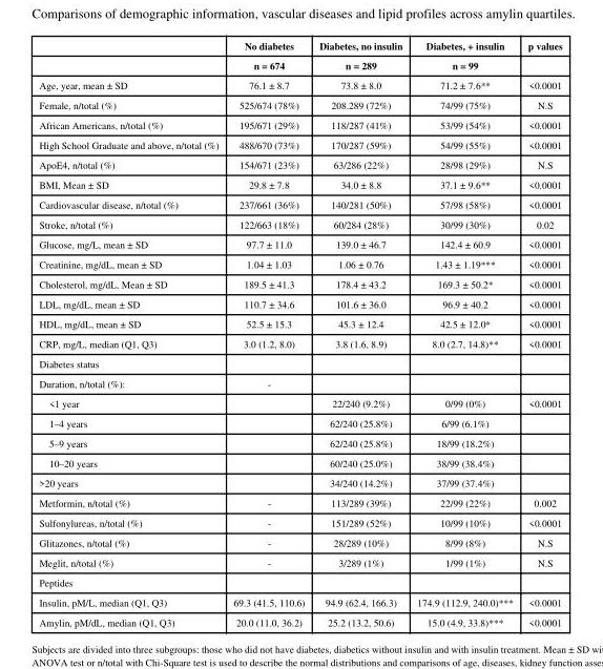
<table><thead><tr><td rowspan="2"></td><td rowspan="2">No diabetes n = 674</td><td rowspan="2">Diabetes, no insulin n = 289</td><td rowspan="2">Diabetes, + insulin n = 99</td><td rowspan="2">p values</td></tr><tr></tr></thead><tbody><tr><td>Age, year, mean ± SD</td><td>76.1 ± 8.7</td><td>73.8 ± 8.0</td><td>71.2 ± 7.6**</td><td>&lt;0.0001</td></tr><tr><td>Female, n/total (%)</td><td>525/674 (78%)</td><td>208.289 (72%)</td><td>74/99 (75%)</td><td>N.S</td></tr><tr><td>African Americans, n/total (%)</td><td>195/671 (29%)</td><td>118/287 (41%)</td><td>53/99 (54%)</td><td>&lt;0.0001</td></tr><tr><td>High School Graduate and above, n/total (%)</td><td>488/670 (73%)</td><td>170/287 (59%)</td><td>54/99 (55%)</td><td>&lt;0.0001</td></tr><tr><td>ApoE4, n/total (%)</td><td>154/671 (23%)</td><td>63/286 (22%)</td><td>28/98 (29%)</td><td>N.S</td></tr><tr><td>BMI, Mean ± SD</td><td>29.8 ± 7.8</td><td>34.0 ± 8.8</td><td>37.1 ± 9.6**</td><td>&lt;0.0001</td></tr><tr><td>Cardiovascular disease, n/total (%)</td><td>237/661 (36%)</td><td>140/281 (50%)</td><td>57/98 (58%)</td><td>&lt;0.0001</td></tr><tr><td>Stroke, n/total (%)</td><td>122/663 (18%)</td><td>60/284 (28%)</td><td>30/99 (30%)</td><td>0.02</td></tr><tr><td>Glucose, mg/L, mean ± SD</td><td>97.7 ± 11.0</td><td>139.0 ± 46.7</td><td>142.4 ± 60.9</td><td>&lt;0.0001</td></tr><tr><td>Creatinine, mg/dL, mean ± SD</td><td>1.04 ± 1.03</td><td>1.06 ± 0.76</td><td>1.43 ± 1.19***</td><td>&lt;0.0001</td></tr><tr><td>Cholesterol, mg/dL, Mean ± SD</td><td>189.5 ± 41.3</td><td>178.4 ± 43.2</td><td>169.3 ± 50.2*</td><td>&lt;0.0001</td></tr><tr><td>LDL, mg/dL, mean ± SD</td><td>110.7 ± 34.6</td><td>101.6 ± 36.0</td><td>96.9 ± 40.2</td><td>&lt;0.0001</td></tr><tr><td>HDL, mg/dL, mean ± SD</td><td>52.5 ± 15.3</td><td>45.3 ± 12.4</td><td>42.5 ± 12.0*</td><td>&lt;0.0001</td></tr><tr><td>CRP, mg/L, median (Q1, Q3)</td><td>3.0 (1.2, 8.0)</td><td>3.8 (1.6, 8.9)</td><td>8.0 (2.7, 14.8)**</td><td>&lt;0.0001</td></tr><tr><td colspan="5">Diabetes status</td></tr><tr><td>Duration, n/total (%):</td><td>-</td><td></td><td></td><td></td></tr><tr><td>&lt;1 year</td><td></td><td>22/240 (9.2%)</td><td>0/99 (0%)</td><td>&lt;0.0001</td></tr><tr><td>1–4 years</td><td></td><td>62/240 (25.8%)</td><td>6/99 (6.1%)</td><td></td></tr><tr><td>5–9 years</td><td></td><td>62/240 (25.8%)</td><td>18/99 (18.2%)</td><td></td></tr><tr><td>10–20 years</td><td></td><td>60/240 (25.0%)</td><td>38/99 (38.4%)</td><td></td></tr><tr><td>&gt;20 years</td><td></td><td>34/240 (14.2%)</td><td>37/99 (37.4%)</td><td></td></tr><tr><td>Metformin, n/total (%)</td><td>-</td><td>113/289 (39%)</td><td>22/99 (22%)</td><td>0.002</td></tr><tr><td>Sulfonylureas, n/total (%)</td><td>-</td><td>151/289 (52%)</td><td>10/99 (10%)</td><td>&lt;0.0001</td></tr><tr><td>Glitazones, n/total (%)</td><td>-</td><td>28/289 (10%)</td><td>8/99 (8%)</td><td>N.S</td></tr><tr><td>Meglit, n/total (%)</td><td>-</td><td>3/289 (1%)</td><td>1/99 (1%)</td><td>N.S</td></tr><tr><td colspan="5">Peptides</td></tr><tr><td>Insulin, pM/L, median (Q1, Q3)</td><td>69.3 (41.5, 110.6)</td><td>94.9 (62.4, 166.3)</td><td>174.9 (112.9, 240.0)***</td><td>&lt;0.0001</td></tr><tr><td>Amylin, pM/dL, median (Q1, Q3)</td><td>20.0 (11.0, 36.2)</td><td>25.2 (13.2, 50.6)</td><td>15.0 (4.9, 33.8)***</td><td>&lt;0.0001</td></tr></tbody></table>